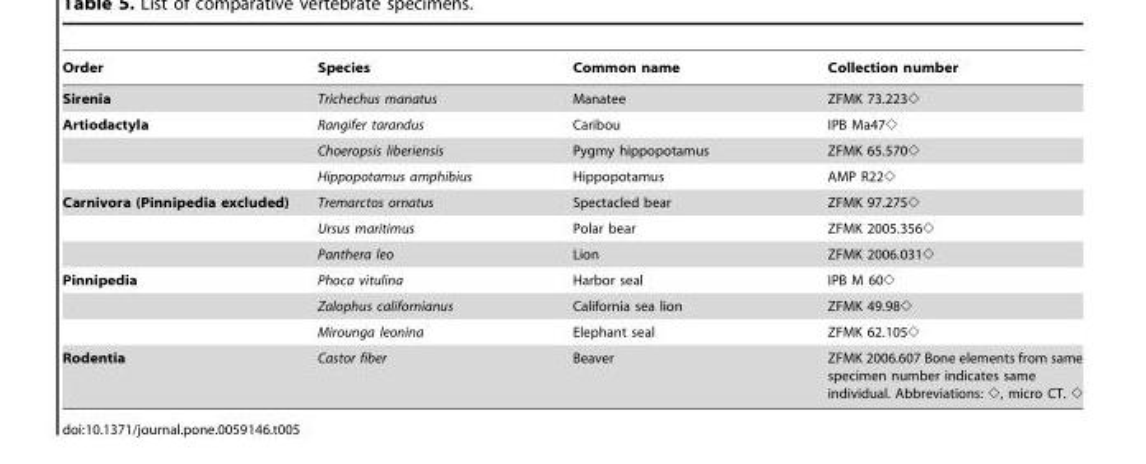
<table><thead><tr><td>Order</td><td>Species</td><td>Common name</td><td>Collection number</td></tr></thead><tbody><tr><td>Sirenia</td><td>Trichechus manatus</td><td>Manatee</td><td>ZFMK 73.223◊</td></tr><tr><td rowspan="3">Artiodactyla</td><td>Rangifer tarandus</td><td>Caribou</td><td>IPB Ma47◊</td></tr><tr><td>Choeropsis liberiensis</td><td>Pygmy hippopotamus</td><td>ZFMK 65.570◊</td></tr><tr><td>Hippopotamus amphibius</td><td>Hippopotamus</td><td>AMP R22◊</td></tr><tr><td rowspan="3">Carnivora (Pinnipedia excluded)</td><td>Tremarctos ornatus</td><td>Spectacled bear</td><td>ZFMK 97.275◊</td></tr><tr><td>Ursus maritimus</td><td>Polar bear</td><td>ZFMK 2005.356◊</td></tr><tr><td>Panthera leo</td><td>Lion</td><td>ZFMK 2006.031◊</td></tr><tr><td rowspan="3">Pinnipedia</td><td>Phoca vitulina</td><td>Harbor seal</td><td>IPB M 60◊</td></tr><tr><td>Zalophus californianus</td><td>California sea lion</td><td>ZFMK 49.98◊</td></tr><tr><td>Mirounga leonina</td><td>Elephant seal</td><td>ZFMK 62.105◊</td></tr><tr><td>Rodentia</td><td>Castor fiber</td><td>Beaver</td><td>ZFMK 2006.607 Bone elements from same specimen number indicates same individual. Abbreviations: ◊, micro CT. ◊</td></tr></tbody></table>